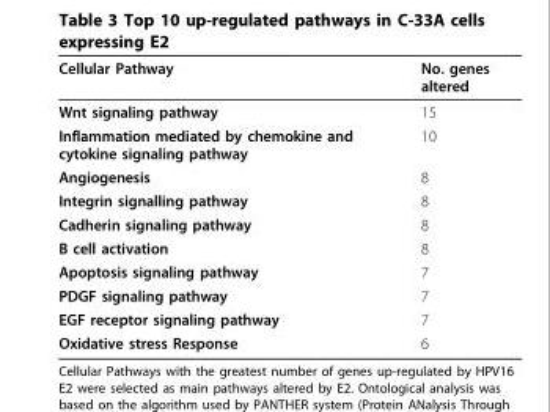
<table><thead><tr><td>Cellular Pathway</td><td>No. genes altered</td></tr></thead><tbody><tr><td>Wnt signaling pathway</td><td>15</td></tr><tr><td>Inflammation mediated by chemokine and cytokine signaling pathway</td><td>10</td></tr><tr><td>Angiogenesis</td><td>8</td></tr><tr><td>Integrin signalling pathway</td><td>8</td></tr><tr><td>Cadherin signaling pathway</td><td>8</td></tr><tr><td>B cell activation</td><td>8</td></tr><tr><td>Apoptosis signaling pathway</td><td>7</td></tr><tr><td>PDGF signaling pathway</td><td>7</td></tr><tr><td>EGF receptor signaling pathway</td><td>7</td></tr><tr><td>Oxidative stress Response</td><td>6</td></tr></tbody></table>